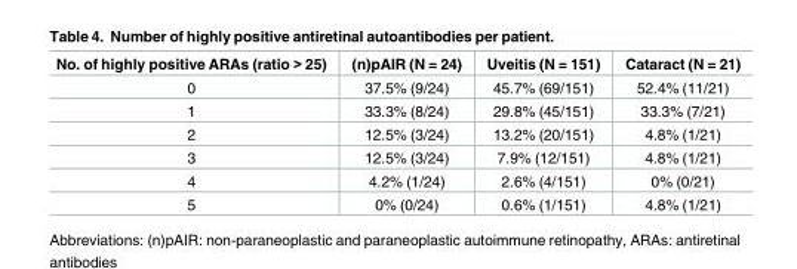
<table><thead><tr><td>No. of highly positive ARAs (ratio &gt; 25)</td><td>(n)pAIR (N = 24)</td><td>Uveitis (N = 151)</td><td>Cataract (N = 21)</td></tr></thead><tbody><tr><td>0</td><td>37.5% (9/24)</td><td>45.7% (69/151)</td><td>52.4% (11/21)</td></tr><tr><td>1</td><td>33.3% (8/24)</td><td>29.8% (45/151)</td><td>33.3% (7/21)</td></tr><tr><td>2</td><td>12.5% (3/24)</td><td>13.2% (20/151)</td><td>4.8% (1/21)</td></tr><tr><td>3</td><td>12.5% (3/24)</td><td>7.9% (12/151)</td><td>4.8% (1/21)</td></tr><tr><td>4</td><td>4.2% (1/24)</td><td>2.6% (4/151)</td><td>0% (0/21)</td></tr><tr><td>5</td><td>0% (0/24)</td><td>0.6% (1/151)</td><td>4.8% (1/21)</td></tr></tbody></table>